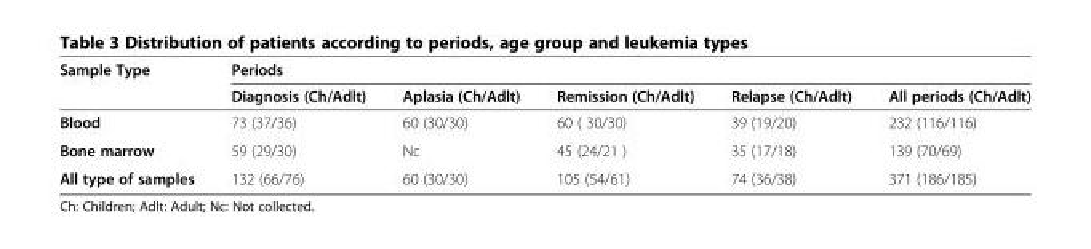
<table><thead><tr><td rowspan="2">Sample Type</td><td colspan="5">Periods</td></tr><tr><td>Diagnosis (Ch/Adlt)</td><td>Aplasia (Ch/Adlt)</td><td>Remission (Ch/Adlt)</td><td>Relapse (Ch/Adlt)</td><td>All periods (Ch/Adlt)</td></tr></thead><tbody><tr><td>Blood</td><td>73 (37/36)</td><td>60 (30/30)</td><td>60 ( 30/30)</td><td>39 (19/20)</td><td>232 (116/116)</td></tr><tr><td>Bone marrow</td><td>59 (29/30)</td><td>Nc</td><td>45 (24/21 )</td><td>35 (17/18)</td><td>139 (70/69)</td></tr><tr><td>All type of samples</td><td>132 (66/76)</td><td>60 (30/30)</td><td>105 (54/61)</td><td>74 (36/38)</td><td>371 (186/185)</td></tr></tbody></table>